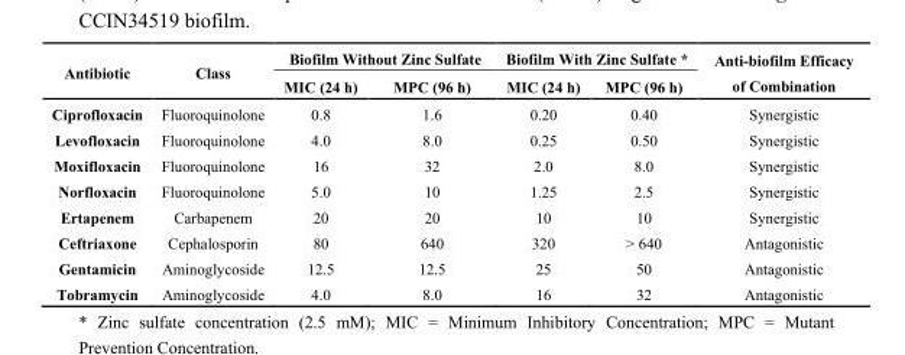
<table><thead><tr><td rowspan="2">Antibiotic</td><td rowspan="2">Class</td><td colspan="2">Biofilm Without Zinc Sulfate</td><td colspan="2">Biofilm With Zinc Sulfate *</td><td rowspan="2">Anti-biofilm Efficacy of Combination</td></tr><tr><td>MIC (24 h)</td><td>MPC (96 h)</td><td>MIC (24 h)</td><td>MPC (96 h)</td></tr></thead><tbody><tr><td>Ciprofloxacin</td><td>Fluoroquinolone</td><td>0.8</td><td>1.6</td><td>0.20</td><td>0.40</td><td>Synergistic</td></tr><tr><td>Levofloxacin</td><td>Fluoroquinolone</td><td>4.0</td><td>8.0</td><td>0.25</td><td>0.50</td><td>Synergistic</td></tr><tr><td>Moxifloxacin</td><td>Fluoroquinolone</td><td>16</td><td>32</td><td>2.0</td><td>8.0</td><td>Synergistic</td></tr><tr><td>Norfloxacin</td><td>Fluoroquinolone</td><td>5.0</td><td>10</td><td>1.25</td><td>2.5</td><td>Synergistic</td></tr><tr><td>Ertapenem</td><td>Carbapenem</td><td>20</td><td>20</td><td>10</td><td>10</td><td>Synergistic</td></tr><tr><td>Ceftriaxone</td><td>Cephalosporin</td><td>80</td><td>640</td><td>320</td><td>&gt; 640</td><td>Antagonistic</td></tr><tr><td>Gentamicin</td><td>Aminoglycoside</td><td>12.5</td><td>12.5</td><td>25</td><td>50</td><td>Antagonistic</td></tr><tr><td>Tobramycin</td><td>Aminoglycoside</td><td>4.0</td><td>8.0</td><td>16</td><td>32</td><td>Antagonistic</td></tr></tbody></table>